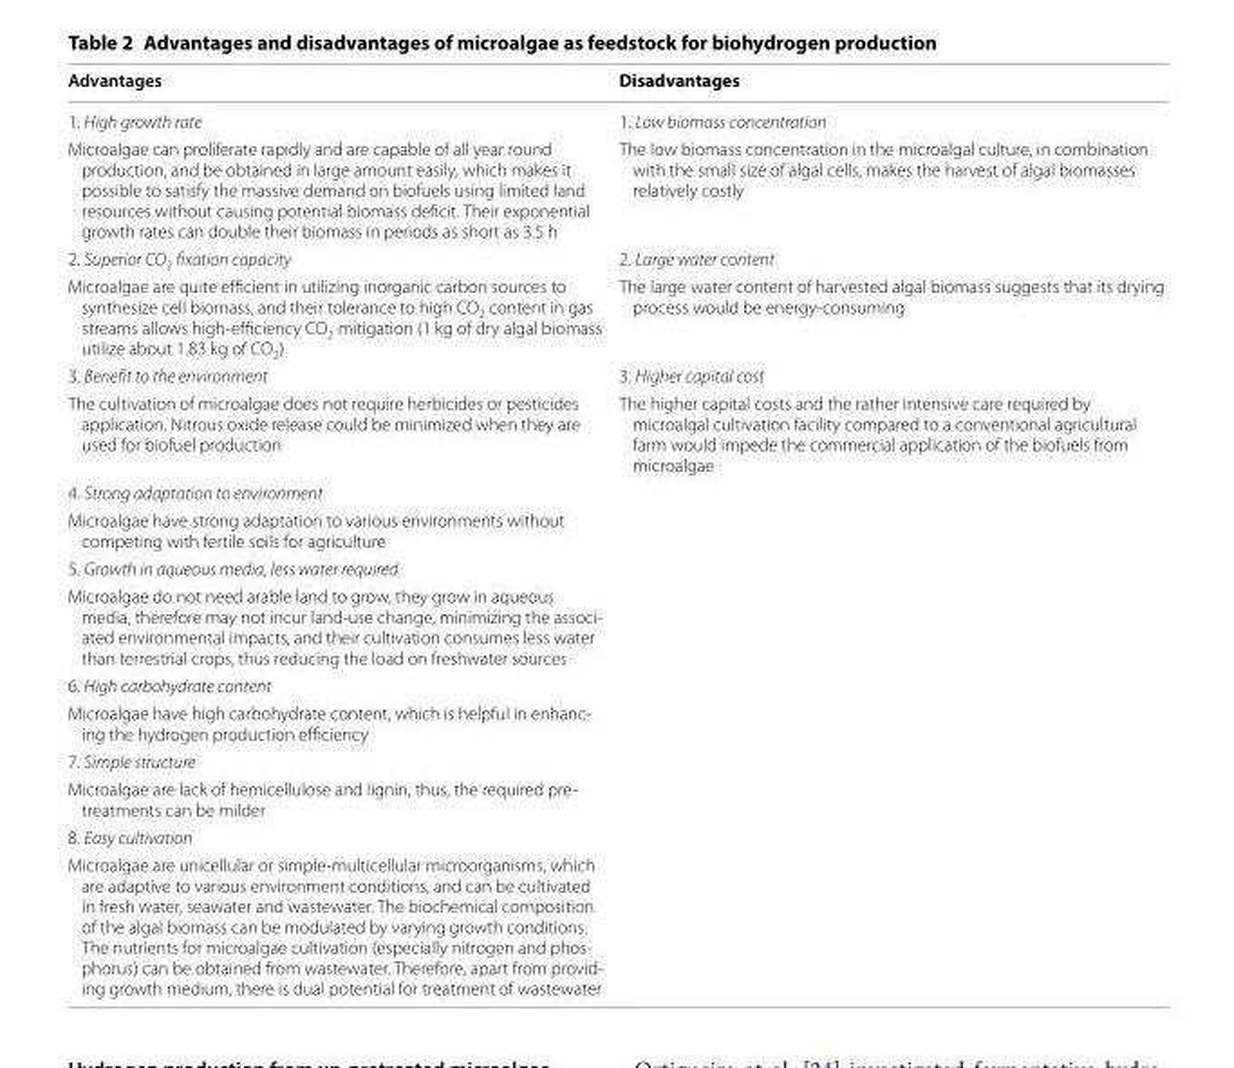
<table><thead><tr><td>Advantages</td><td>Disadvantages</td></tr></thead><tbody><tr><td>1. High growth rate</td><td>1. Low biomass concentration</td></tr><tr><td>Microalgae can proliferate rapidly and are capable of all year round production, and be obtained in large amount easily, which makes it possible to satisfy the massive demand on biofuels using limited land resources without causing potential biomass deficit. Their exponential growth rates can double their biomass in periods as short as 3.5 h</td><td>The low biomass concentration in the microalgal culture, in combination with the small size of algal cells, makes the harvest of algal biomasses relatively costly</td></tr><tr><td>2. Superior CO<sub>2</sub> fixation capacity</td><td>2. Large water content</td></tr><tr><td>Microalgae are quite efficient in utilizing inorganic carbon sources to synthesize cell biomass, and their tolerance to high CO<sub>2</sub> content in gas streams allows high-efficiency CO<sub>2</sub> mitigation (1 kg of dry algal biomass utilize about 1.83 kg of CO<sub>2</sub>)</td><td>The large water content of harvested algal biomass suggests that its drying process would be energy-consuming</td></tr><tr><td>3. Benefit to the environment</td><td>3. Higher capital cost</td></tr><tr><td>The cultivation of microalgae does not require herbicides or pesticides application. Nitrous oxide release could be minimized when they are used for biofuel production</td><td>The higher capital costs and the rather intensive care required by microalgal cultivation facility compared to a conventional agricultural farm would impede the commercial application of the biofuels from microalgae</td></tr><tr><td>4. Strong adaptation to environment</td><td rowspan="2"></td></tr><tr><td>Microalgae have strong adaptation to various environments without competing with fertile soils for agriculture</td></tr><tr><td>5. Growth in aqueous media, less water required</td><td rowspan="2"></td></tr><tr><td>Microalgae do not need arable land to grow, they grow in aqueous media, therefore may not incur land-use change, minimizing the associ- ated environmental impacts, and their cultivation consumes less water than terrestrial crops, thus reducing the load on freshwater sources</td></tr><tr><td>6. High carbohydrate content</td><td rowspan="2"></td></tr><tr><td>Microalgae have high carbohydrate content, which is helpful in enhanc- ing the hydrogen production efficiency</td></tr><tr><td>7. Simple structure</td><td rowspan="2"></td></tr><tr><td>Microalgae are lack of hemicellulose and lignin, thus, the required pre- treatments can be milder</td></tr><tr><td>8. Easy cultivation</td><td rowspan="2"></td></tr><tr><td>Microalgae are unicellular or simple-multicellular microorganisms, which are adaptive to various environment conditions, and can be cultivated in fresh water, seawater and wastewater. The biochemical composition of the algal biomass can be modulated by varying growth conditions. The nutrients for microalgae cultivation (especially nitrogen and phos- phorus) can be obtained from wastewater. Therefore, apart from provid- ing growth medium, there is dual potential for treatment of wastewater</td></tr></tbody></table>